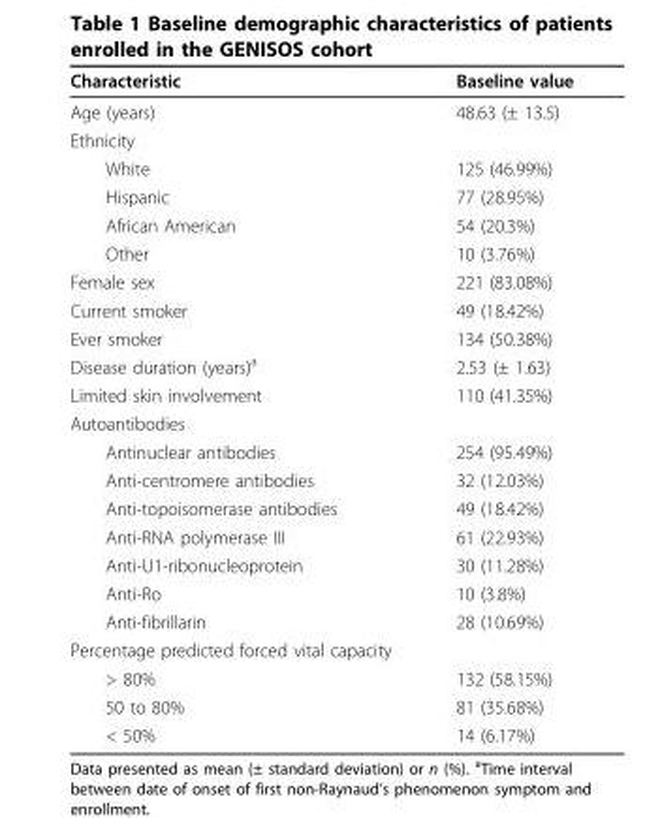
<table><thead><tr><td>Characteristic</td><td>Baseline value</td></tr></thead><tbody><tr><td>Age (years)</td><td>48.63 (± 13.5)</td></tr><tr><td colspan="2">Ethnicity</td></tr><tr><td>White</td><td>125 (46.99%)</td></tr><tr><td>Hispanic</td><td>77 (28.95%)</td></tr><tr><td>African American</td><td>54 (20.3%)</td></tr><tr><td>Other</td><td>10 (3.76%)</td></tr><tr><td>Female sex</td><td>221 (83.08%)</td></tr><tr><td>Current smoker</td><td>49 (18.42%)</td></tr><tr><td>Ever smoker</td><td>134 (50.38%)</td></tr><tr><td>Disease duration (years)<sup>a</sup></td><td>2.53 (± 1.63)</td></tr><tr><td>Limited skin involvement</td><td>110 (41.35%)</td></tr><tr><td colspan="2">Autoantibodies</td></tr><tr><td>Antinuclear antibodies</td><td>254 (95.49%)</td></tr><tr><td>Anti-centromere antibodies</td><td>32 (12.03%)</td></tr><tr><td>Anti-topoisomerase antibodies</td><td>49 (18.42%)</td></tr><tr><td>Anti-RNA polymerase III</td><td>61 (22.93%)</td></tr><tr><td>Anti-U1-ribonucleoprotein</td><td>30 (11.28%)</td></tr><tr><td>Anti-Ro</td><td>10 (3.8%)</td></tr><tr><td>Anti-fibrillarin</td><td>28 (10.69%)</td></tr><tr><td colspan="2">Percentage predicted forced vital capacity</td></tr><tr><td>&gt; 80%</td><td>132 (58.15%)</td></tr><tr><td>50 to 80%</td><td>81 (35.68%)</td></tr><tr><td>&lt; 50%</td><td>14 (6.17%)</td></tr></tbody></table>